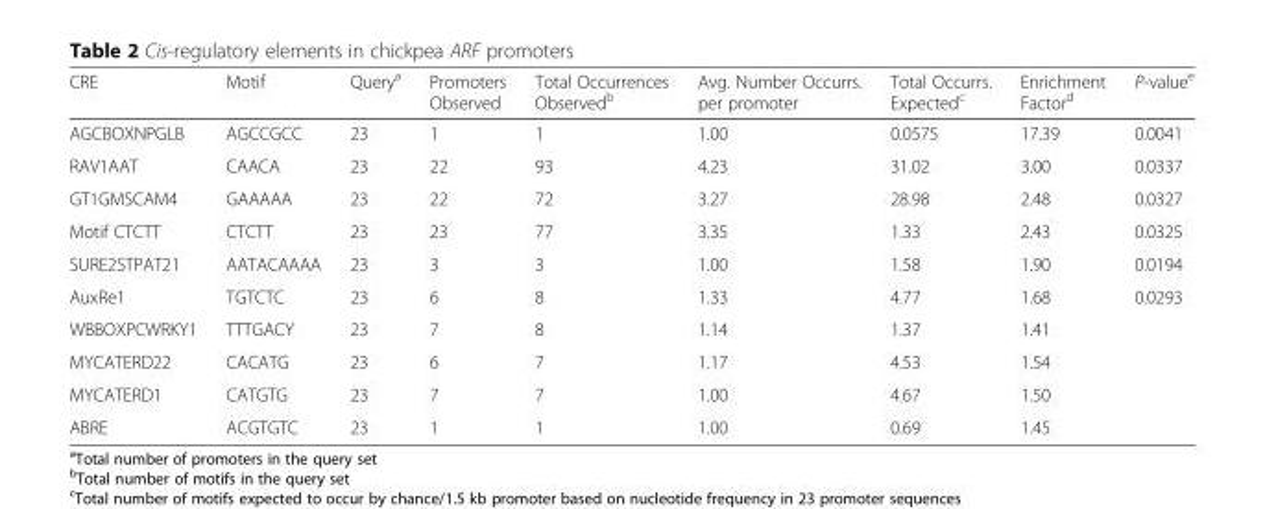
<table><thead><tr><td>CRE</td><td>Motif</td><td>Query<sup>a</sup></td><td>Promoters Observed</td><td>Total Occurrences Observed<sup>b</sup></td><td>Avg. Number Occurrs. per promoter</td><td>Total Occurrs. Expected<sup>c</sup></td><td>Enrichment Factor<sup>d</sup></td><td>P-value<sup>e</sup></td></tr></thead><tbody><tr><td>AGCBOXNPGLB</td><td>AGCCGCC</td><td>23</td><td>1</td><td>1</td><td>1.00</td><td>0.0575</td><td>17.39</td><td>0.0041</td></tr><tr><td>RAV1AAT</td><td>CAACA</td><td>23</td><td>22</td><td>93</td><td>4.23</td><td>31.02</td><td>3.00</td><td>0.0337</td></tr><tr><td>GT1GMSCAM4</td><td>GAAAAA</td><td>23</td><td>22</td><td>72</td><td>3.27</td><td>28.98</td><td>2.48</td><td>0.0327</td></tr><tr><td>Motif CTCTT</td><td>CTCTT</td><td>23</td><td>23</td><td>77</td><td>3.35</td><td>1.33</td><td>2.43</td><td>0.0325</td></tr><tr><td>SURE2STPAT21</td><td>AATACAAAA</td><td>23</td><td>3</td><td>3</td><td>1.00</td><td>1.58</td><td>1.90</td><td>0.0194</td></tr><tr><td>AuxRe1</td><td>TGTCTC</td><td>23</td><td>6</td><td>8</td><td>1.33</td><td>4.77</td><td>1.68</td><td>0.0293</td></tr><tr><td>WBBOXPCWRKY1</td><td>TTTGACY</td><td>23</td><td>7</td><td>8</td><td>1.14</td><td>1.37</td><td>1.41</td><td></td></tr><tr><td>MYCATERD22</td><td>CACATG</td><td>23</td><td>6</td><td>7</td><td>1.17</td><td>4.53</td><td>1.54</td><td></td></tr><tr><td>MYCATERD1</td><td>CATGTG</td><td>23</td><td>7</td><td>7</td><td>1.00</td><td>4.67</td><td>1.50</td><td></td></tr><tr><td>ABRE</td><td>ACGTGTC</td><td>23</td><td>1</td><td>1</td><td>1.00</td><td>0.69</td><td>1.45</td><td></td></tr></tbody></table>